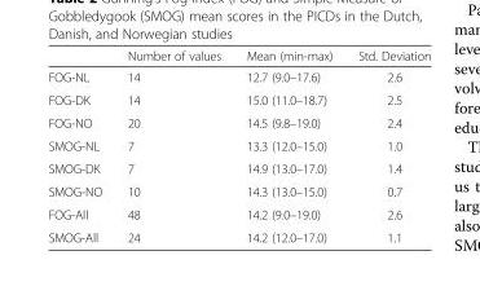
<table><thead><tr><td></td><td>Number of values</td><td>Mean (min-max)</td><td>Std. Deviation</td></tr></thead><tbody><tr><td>FOG-NL</td><td>14</td><td>12.7 (9.0–17.6)</td><td>2.6</td></tr><tr><td>FOG-DK</td><td>14</td><td>15.0 (11.0–18.7)</td><td>2.5</td></tr><tr><td>FOG-NO</td><td>20</td><td>14.5 (9.8–19.0)</td><td>2.4</td></tr><tr><td>SMOG-NL</td><td>7</td><td>13.3 (12.0–15.0)</td><td>1.0</td></tr><tr><td>SMOG-DK</td><td>7</td><td>14.9 (13.0–17.0)</td><td>1.4</td></tr><tr><td>SMOG-NO</td><td>10</td><td>14.3 (13.0–15.0)</td><td>0.7</td></tr><tr><td>FOG-All</td><td>48</td><td>14.2 (9.0–19.0)</td><td>2.6</td></tr><tr><td>SMOG-All</td><td>24</td><td>14.2 (12.0–17.0)</td><td>1.1</td></tr></tbody></table>